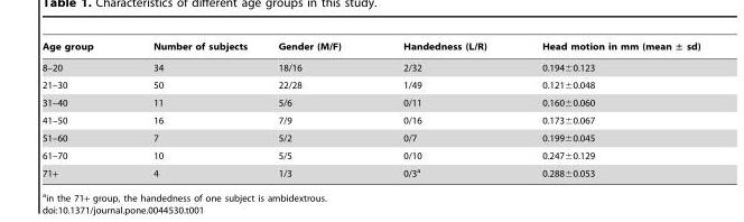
<table><thead><tr><td>Age group</td><td>Number of subjects</td><td>Gender (M/F)</td><td>Handedness (L/R)</td><td>Head motion in mm (mean ± sd)</td></tr></thead><tbody><tr><td>8–20</td><td>34</td><td>18/16</td><td>2/32</td><td>0.194±0.123</td></tr><tr><td>21–30</td><td>50</td><td>22/28</td><td>1/49</td><td>0.121±0.048</td></tr><tr><td>31–40</td><td>11</td><td>5/6</td><td>0/11</td><td>0.160±0.060</td></tr><tr><td>41–50</td><td>16</td><td>7/9</td><td>0/16</td><td>0.173±0.067</td></tr><tr><td>51–60</td><td>7</td><td>5/2</td><td>0/7</td><td>0.199±0.045</td></tr><tr><td>61–70</td><td>10</td><td>5/5</td><td>0/10</td><td>0.247±0.129</td></tr><tr><td>71+</td><td>4</td><td>1/3</td><td>0/3<sup>a</sup></td><td>0.288±0.053</td></tr></tbody></table>